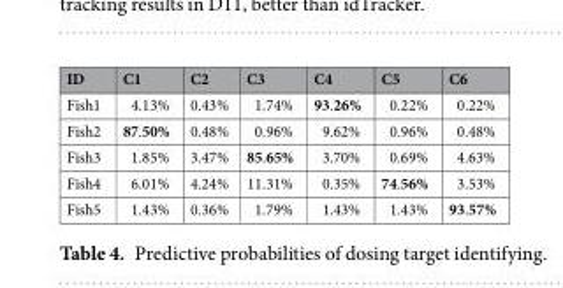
<table><thead><tr><td>ID</td><td>C1</td><td>C2</td><td>C3</td><td>C4</td><td>C5</td><td>C6</td></tr></thead><tbody><tr><td>Fish1</td><td>4.13%</td><td>0.43%</td><td>1.74%</td><td>93.26%</td><td>0.22%</td><td>0.22%</td></tr><tr><td>Fish2</td><td>87.50%</td><td>0.48%</td><td>0.96%</td><td>9.62%</td><td>0.96%</td><td>0.48%</td></tr><tr><td>Fish3</td><td>1.85%</td><td>3.47%</td><td>85.65%</td><td>3.70%</td><td>0.69%</td><td>4.63%</td></tr><tr><td>Fish4</td><td>6.01%</td><td>4.24%</td><td>11.31%</td><td>0.35%</td><td>74.56%</td><td>3.53%</td></tr><tr><td>Fish5</td><td>1.43%</td><td>0.36%</td><td>1.79%</td><td>1.43%</td><td>1.43%</td><td>93.57%</td></tr></tbody></table>